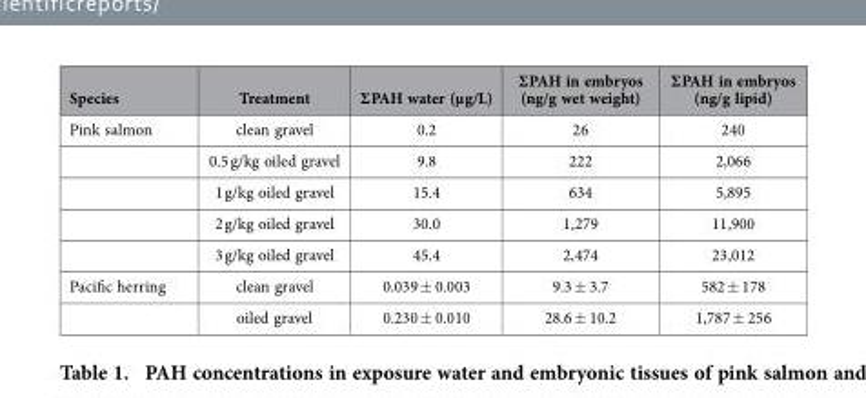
<table><thead><tr><td>Species</td><td>Treatment</td><td>Σ PAH water (μ g/L)</td><td>Σ PAH in embryos (ng/g wet weight)</td><td>Σ PAH in embryos (ng/g lipid)</td></tr></thead><tbody><tr><td rowspan="5">Pink salmon</td><td>clean gravel</td><td>0.2</td><td>26</td><td>240</td></tr><tr><td>0.5 g/kg oiled gravel</td><td>9.8</td><td>222</td><td>2,066</td></tr><tr><td>1 g/kg oiled gravel</td><td>15.4</td><td>634</td><td>5,895</td></tr><tr><td>2 g/kg oiled gravel</td><td>30.0</td><td>1,279</td><td>11,900</td></tr><tr><td>3 g/kg oiled gravel</td><td>45.4</td><td>2,474</td><td>23,012</td></tr><tr><td rowspan="2">Pacific herring</td><td>clean gravel</td><td>0.039 ± 0.003</td><td>9.3 ± 3.7</td><td>582 ± 178</td></tr><tr><td>oiled gravel</td><td>0.230 ± 0.010</td><td>28.6 ± 10.2</td><td>1,787 ± 256</td></tr></tbody></table>